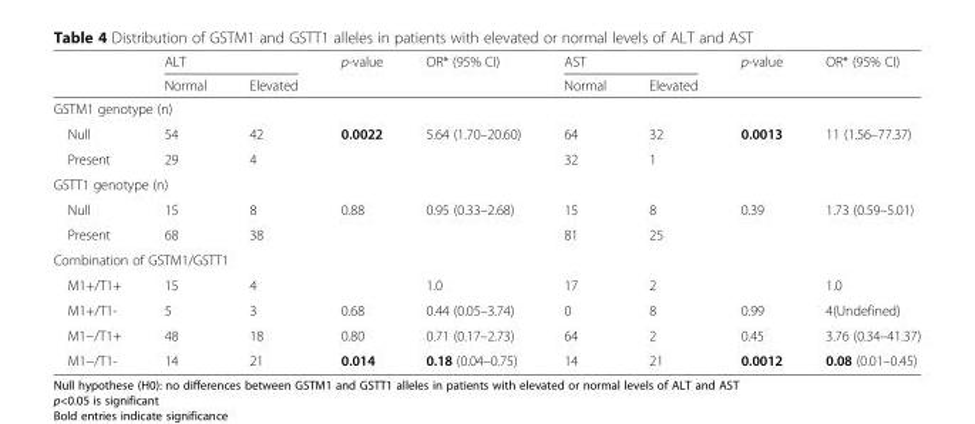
<table><thead><tr><td rowspan="2"></td><td colspan="2">ALT</td><td rowspan="2">p-value</td><td rowspan="2">OR* (95% CI)</td><td colspan="2">AST</td><td rowspan="2">p-value</td><td rowspan="2">OR* (95% CI)</td></tr><tr><td>Normal</td><td>Elevated</td><td>Normal</td><td>Elevated</td></tr></thead><tbody><tr><td colspan="9">GSTM1 genotype (n)</td></tr><tr><td>Null</td><td>54</td><td>42</td><td rowspan="2">0.0022</td><td rowspan="2">5.64 (1.70–20.60)</td><td>64</td><td>32</td><td rowspan="2">0.0013</td><td rowspan="2">11 (1.56–77.37)</td></tr><tr><td>Present</td><td>29</td><td>4</td><td>32</td><td>1</td></tr><tr><td colspan="9">GSTT1 genotype (n)</td></tr><tr><td>Null</td><td>15</td><td>8</td><td rowspan="2">0.88</td><td rowspan="2">0.95 (0.33–2.68)</td><td>15</td><td>8</td><td rowspan="2">0.39</td><td rowspan="2">1.73 (0.59–5.01)</td></tr><tr><td>Present</td><td>68</td><td>38</td><td>81</td><td>25</td></tr><tr><td colspan="9">Combination of GSTM1/GSTT1</td></tr><tr><td>M1+/T1+</td><td>15</td><td>4</td><td></td><td>1.0</td><td>17</td><td>2</td><td></td><td>1.0</td></tr><tr><td>M1+/T1-</td><td>5</td><td>3</td><td>0.68</td><td>0.44 (0.05–3.74)</td><td>0</td><td>8</td><td>0.99</td><td>4(Undefined)</td></tr><tr><td>M1−/T1+</td><td>48</td><td>18</td><td>0.80</td><td>0.71 (0.17–2.73)</td><td>64</td><td>2</td><td>0.45</td><td>3.76 (0.34–41.37)</td></tr><tr><td>M1−/T1-</td><td>14</td><td>21</td><td>0.014</td><td>0.18 (0.04–0.75)</td><td>14</td><td>21</td><td>0.0012</td><td>0.08 (0.01–0.45)</td></tr></tbody></table>